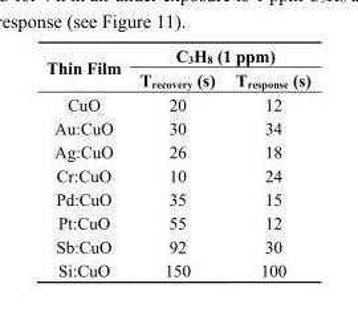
<table><thead><tr><td rowspan="2">Thin Film</td><td colspan="2">C<sub>3</sub>H<sub>8</sub> (1 ppm)</td></tr><tr><td>T<sub>recovery</sub> (s)</td><td>T<sub>response</sub> (s)</td></tr></thead><tbody><tr><td>CuO</td><td>20</td><td>12</td></tr><tr><td>Au:CuO</td><td>30</td><td>34</td></tr><tr><td>Ag:CuO</td><td>26</td><td>18</td></tr><tr><td>Cr:CuO</td><td>10</td><td>24</td></tr><tr><td>Pd:CuO</td><td>35</td><td>15</td></tr><tr><td>Pt:CuO</td><td>55</td><td>12</td></tr><tr><td>Sb:CuO</td><td>92</td><td>30</td></tr><tr><td>Si:CuO</td><td>150</td><td>100</td></tr></tbody></table>